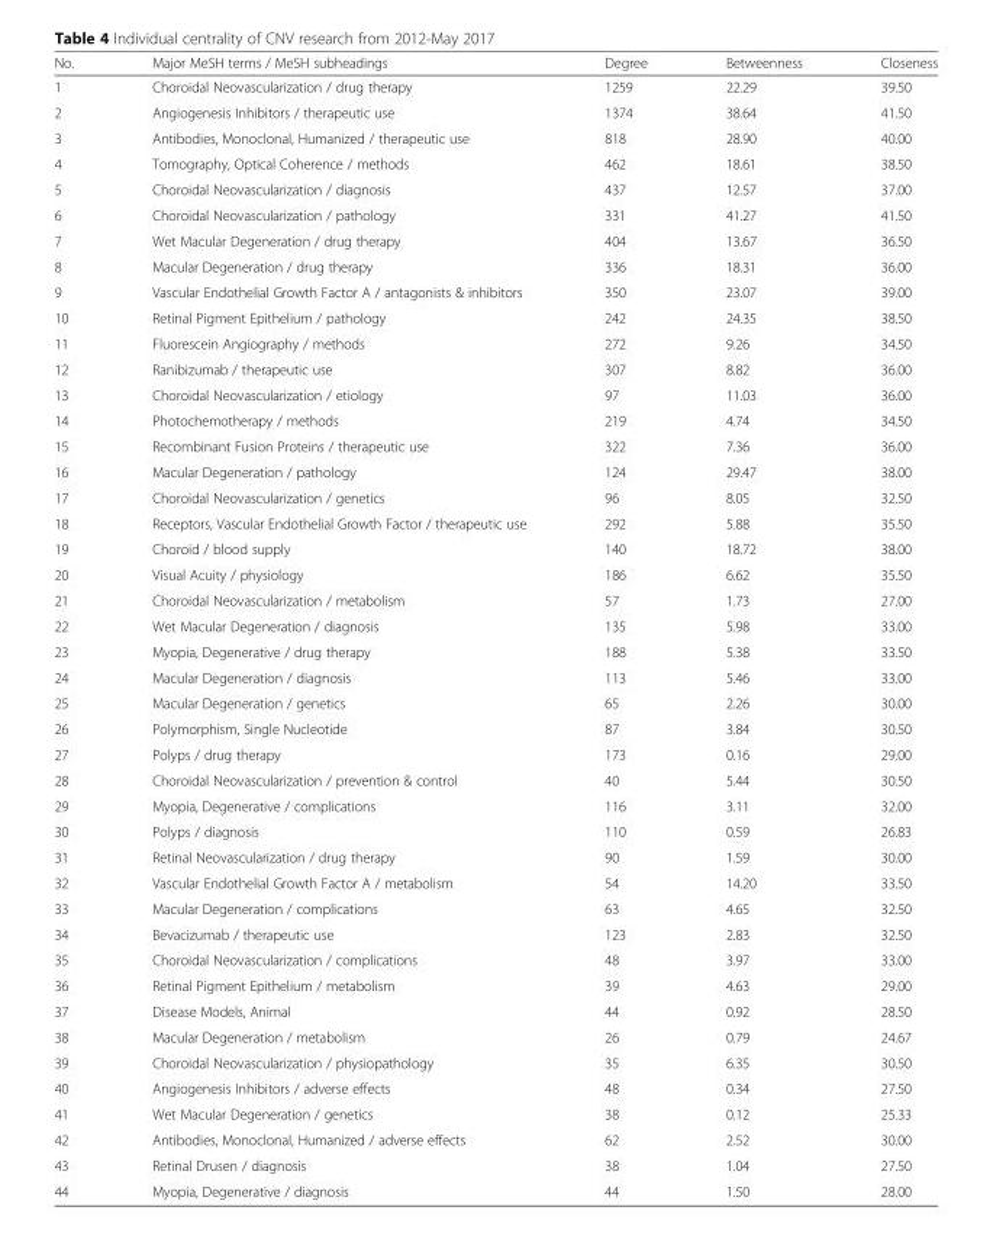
<table><thead><tr><td>No.</td><td>Major MeSH terms / MeSH subheadings</td><td>Degree</td><td>Betweenness</td><td>Closeness</td></tr></thead><tbody><tr><td>1</td><td>Choroidal Neovascularization / drug therapy</td><td>1259</td><td>22.29</td><td>39.50</td></tr><tr><td>2</td><td>Angiogenesis Inhibitors / therapeutic use</td><td>1374</td><td>38.64</td><td>41.50</td></tr><tr><td>3</td><td>Antibodies, Monoclonal, Humanized / therapeutic use</td><td>818</td><td>28.90</td><td>40.00</td></tr><tr><td>4</td><td>Tomography, Optical Coherence / methods</td><td>462</td><td>18.61</td><td>38.50</td></tr><tr><td>5</td><td>Choroidal Neovascularization / diagnosis</td><td>437</td><td>12.57</td><td>37.00</td></tr><tr><td>6</td><td>Choroidal Neovascularization / pathology</td><td>331</td><td>41.27</td><td>41.50</td></tr><tr><td>7</td><td>Wet Macular Degeneration / drug therapy</td><td>404</td><td>13.67</td><td>36.50</td></tr><tr><td>8</td><td>Macular Degeneration / drug therapy</td><td>336</td><td>18.31</td><td>36.00</td></tr><tr><td>9</td><td>Vascular Endothelial Growth Factor A / antagonists &amp; inhibitors</td><td>350</td><td>23.07</td><td>39.00</td></tr><tr><td>10</td><td>Retinal Pigment Epithelium / pathology</td><td>242</td><td>24.35</td><td>38.50</td></tr><tr><td>11</td><td>Fluorescein Angiography / methods</td><td>272</td><td>9.26</td><td>34.50</td></tr><tr><td>12</td><td>Ranibizumab / therapeutic use</td><td>307</td><td>8.82</td><td>36.00</td></tr><tr><td>13</td><td>Choroidal Neovascularization / etiology</td><td>97</td><td>11.03</td><td>36.00</td></tr><tr><td>14</td><td>Photochemotherapy / methods</td><td>219</td><td>4.74</td><td>34.50</td></tr><tr><td>15</td><td>Recombinant Fusion Proteins / therapeutic use</td><td>322</td><td>7.36</td><td>36.00</td></tr><tr><td>16</td><td>Macular Degeneration / pathology</td><td>124</td><td>29.47</td><td>38.00</td></tr><tr><td>17</td><td>Choroidal Neovascularization / genetics</td><td>96</td><td>8.05</td><td>32.50</td></tr><tr><td>18</td><td>Receptors, Vascular Endothelial Growth Factor / therapeutic use</td><td>292</td><td>5.88</td><td>35.50</td></tr><tr><td>19</td><td>Choroid / blood supply</td><td>140</td><td>18.72</td><td>38.00</td></tr><tr><td>20</td><td>Visual Acuity / physiology</td><td>186</td><td>6.62</td><td>35.50</td></tr><tr><td>21</td><td>Choroidal Neovascularization / metabolism</td><td>57</td><td>1.73</td><td>27.00</td></tr><tr><td>22</td><td>Wet Macular Degeneration / diagnosis</td><td>135</td><td>5.98</td><td>33.00</td></tr><tr><td>23</td><td>Myopia, Degenerative / drug therapy</td><td>188</td><td>5.38</td><td>33.50</td></tr><tr><td>24</td><td>Macular Degeneration / diagnosis</td><td>113</td><td>5.46</td><td>33.00</td></tr><tr><td>25</td><td>Macular Degeneration / genetics</td><td>65</td><td>2.26</td><td>30.00</td></tr><tr><td>26</td><td>Polymorphism, Single Nucleotide</td><td>87</td><td>3.84</td><td>30.50</td></tr><tr><td>27</td><td>Polyps / drug therapy</td><td>173</td><td>0.16</td><td>29.00</td></tr><tr><td>28</td><td>Choroidal Neovascularization / prevention &amp; control</td><td>40</td><td>5.44</td><td>30.50</td></tr><tr><td>29</td><td>Myopia, Degenerative / complications</td><td>116</td><td>3.11</td><td>32.00</td></tr><tr><td>30</td><td>Polyps / diagnosis</td><td>110</td><td>0.59</td><td>26.83</td></tr><tr><td>31</td><td>Retinal Neovascularization / drug therapy</td><td>90</td><td>1.59</td><td>30.00</td></tr><tr><td>32</td><td>Vascular Endothelial Growth Factor A / metabolism</td><td>54</td><td>14.20</td><td>33.50</td></tr><tr><td>33</td><td>Macular Degeneration / complications</td><td>63</td><td>4.65</td><td>32.50</td></tr><tr><td>34</td><td>Bevacizumab / therapeutic use</td><td>123</td><td>2.83</td><td>32.50</td></tr><tr><td>35</td><td>Choroidal Neovascularization / complications</td><td>48</td><td>3.97</td><td>33.00</td></tr><tr><td>36</td><td>Retinal Pigment Epithelium / metabolism</td><td>39</td><td>4.63</td><td>29.00</td></tr><tr><td>37</td><td>Disease Models, Animal</td><td>44</td><td>0.92</td><td>28.50</td></tr><tr><td>38</td><td>Macular Degeneration / metabolism</td><td>26</td><td>0.79</td><td>24.67</td></tr><tr><td>39</td><td>Choroidal Neovascularization / physiopathology</td><td>35</td><td>6.35</td><td>30.50</td></tr><tr><td>40</td><td>Angiogenesis Inhibitors / adverse effects</td><td>48</td><td>0.34</td><td>27.50</td></tr><tr><td>41</td><td>Wet Macular Degeneration / genetics</td><td>38</td><td>0.12</td><td>25.33</td></tr><tr><td>42</td><td>Antibodies, Monoclonal, Humanized / adverse effects</td><td>62</td><td>2.52</td><td>30.00</td></tr><tr><td>43</td><td>Retinal Drusen / diagnosis</td><td>38</td><td>1.04</td><td>27.50</td></tr><tr><td>44</td><td>Myopia, Degenerative / diagnosis</td><td>44</td><td>1.50</td><td>28.00</td></tr></tbody></table>